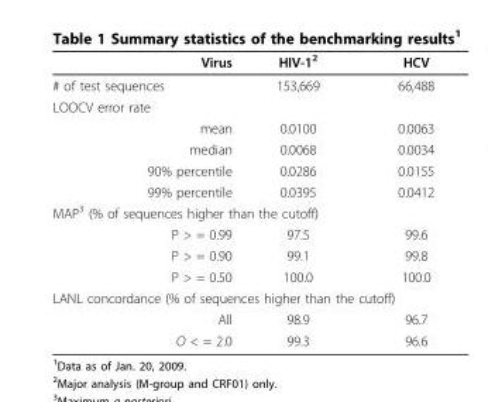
<table><thead><tr><td>Virus</td><td>HIV-1<sup>2</sup></td><td>HCV</td></tr></thead><tbody><tr><td># of test sequences</td><td>153,669</td><td>66,488</td></tr><tr><td colspan="3">LOOCV error rate</td></tr><tr><td>mean</td><td>0.0100</td><td>0.0063</td></tr><tr><td>median</td><td>0.0068</td><td>0.0034</td></tr><tr><td>90% percentile</td><td>0.0286</td><td>0.0155</td></tr><tr><td>99% percentile</td><td>0.0395</td><td>0.0412</td></tr><tr><td colspan="3">MAP<sup>3</sup> (% of sequences higher than the cutoff)</td></tr><tr><td>P &gt; = 0.99</td><td>97.5</td><td>99.6</td></tr><tr><td>P &gt; = 0.90</td><td>99.1</td><td>99.8</td></tr><tr><td>P &gt; = 0.50</td><td>100.0</td><td>100.0</td></tr><tr><td colspan="3">LANL concordance (% of sequences higher than the cutoff)</td></tr><tr><td>All</td><td>98.9</td><td>96.7</td></tr><tr><td>O &lt; = 2.0</td><td>99.3</td><td>96.6</td></tr></tbody></table>